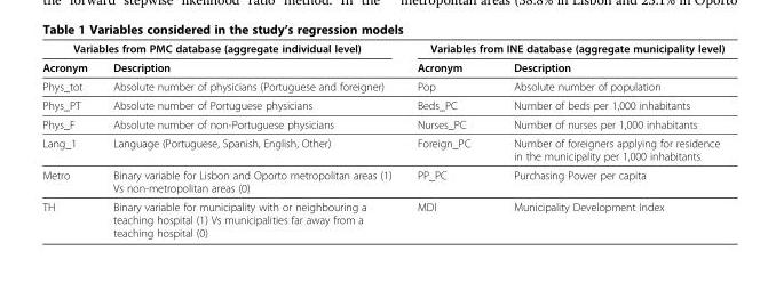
<table><thead><tr><td colspan="2">Variables from PMC database (aggregate individual level)</td><td colspan="2">Variables from INE database (aggregate municipality level)</td></tr><tr><td>Acronym</td><td>Description</td><td>Acronym</td><td>Description</td></tr></thead><tbody><tr><td>Phys_tot</td><td>Absolute number of physicians (Portuguese and foreigner)</td><td>Pop</td><td>Absolute number of population</td></tr><tr><td>Phys_PT</td><td>Absolute number of Portuguese physicians</td><td>Beds_PC</td><td>Number of beds per 1,000 inhabitants</td></tr><tr><td>Phys_F</td><td>Absolute number of non-Portuguese physicians</td><td>Nurses_PC</td><td>Number of nurses per 1,000 inhabitants</td></tr><tr><td>Lang_1</td><td>Language (Portuguese, Spanish, English, Other)</td><td>Foreign_PC</td><td>Number of foreigners applying for residence in the municipality per 1,000 inhabitants</td></tr><tr><td>Metro</td><td>Binary variable for Lisbon and Oporto metropolitan areas (1) Vs non-metropolitan areas (0)</td><td>PP_PC</td><td>Purchasing Power per capita</td></tr><tr><td>TH</td><td>Binary variable for municipality with or neighbouring a teaching hospital (1) Vs municipalities far away from a teaching hospital (0)</td><td>MDI</td><td>Municipality Development Index</td></tr></tbody></table>